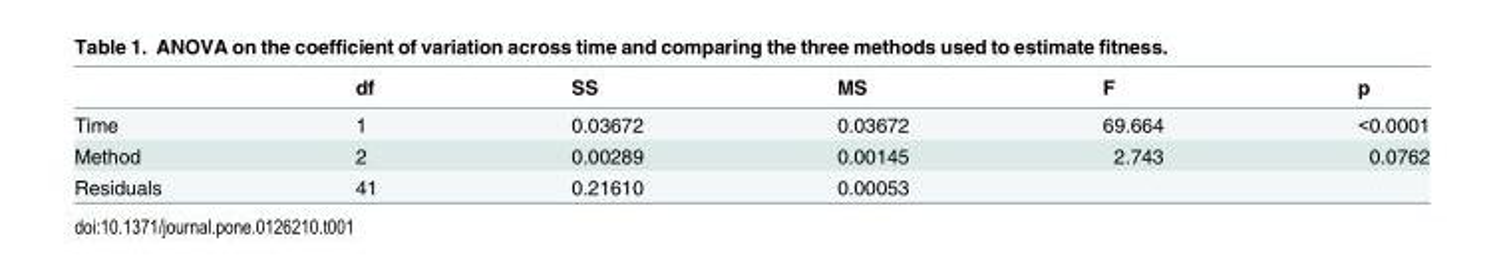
<table><thead><tr><td></td><td>df</td><td>SS</td><td>MS</td><td>F</td><td>p</td></tr></thead><tbody><tr><td>Time</td><td>1</td><td>0.03672</td><td>0.03672</td><td>69.664</td><td>&lt;0.0001</td></tr><tr><td>Method</td><td>2</td><td>0.00289</td><td>0.00145</td><td>2.743</td><td>0.0762</td></tr><tr><td>Residuals</td><td>41</td><td>0.21610</td><td>0.00053</td><td></td><td></td></tr></tbody></table>